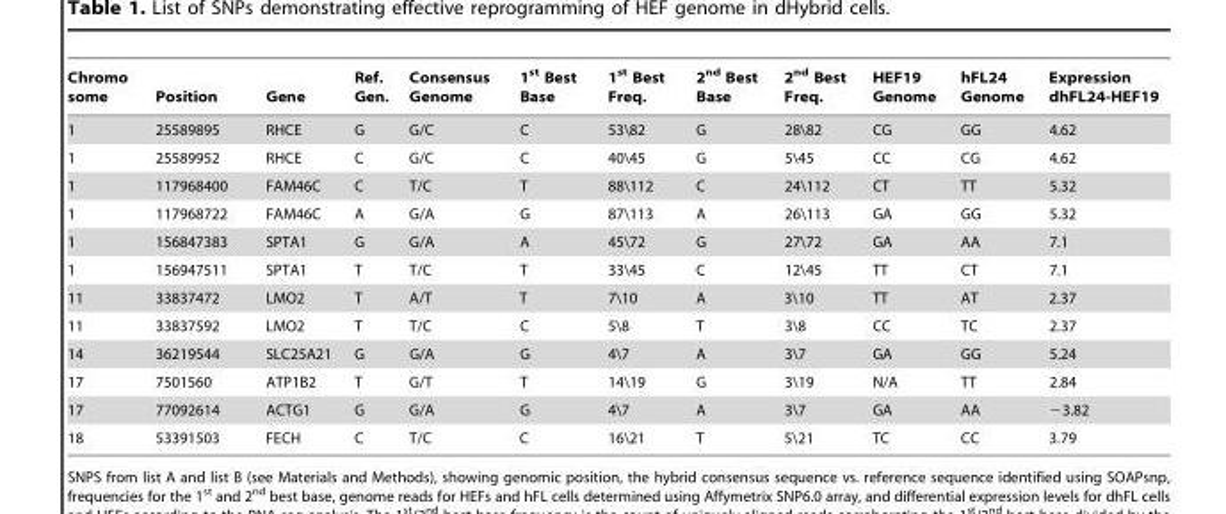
<table><thead><tr><td>Chromo some</td><td>Position</td><td>Gene</td><td>Ref. Gen.</td><td>Consensus Genome</td><td>1<sup>st</sup> Best Base</td><td>1<sup>st</sup> Best Freq.</td><td>2<sup>nd</sup> Best Base</td><td>2<sup>nd</sup> Best Freq.</td><td>HEF19 Genome</td><td>hFL24 Genome</td><td>Expression dhFL24-HEF19</td></tr></thead><tbody><tr><td>1</td><td>25589895</td><td>RHCE</td><td>G</td><td>G/C</td><td>C</td><td>53\82</td><td>G</td><td>28\82</td><td>CG</td><td>GG</td><td>4.62</td></tr><tr><td>1</td><td>25589952</td><td>RHCE</td><td>C</td><td>G/C</td><td>C</td><td>40\45</td><td>G</td><td>5\45</td><td>CC</td><td>CG</td><td>4.62</td></tr><tr><td>1</td><td>117968400</td><td>FAM46C</td><td>C</td><td>T/C</td><td>T</td><td>88\112</td><td>C</td><td>24\112</td><td>CT</td><td>TT</td><td>5.32</td></tr><tr><td>1</td><td>117968722</td><td>FAM46C</td><td>A</td><td>G/A</td><td>G</td><td>87\113</td><td>A</td><td>26\113</td><td>GA</td><td>GG</td><td>5.32</td></tr><tr><td>1</td><td>156847383</td><td>SPTA1</td><td>G</td><td>G/A</td><td>A</td><td>45\72</td><td>G</td><td>27\72</td><td>GA</td><td>AA</td><td>7.1</td></tr><tr><td>1</td><td>156947511</td><td>SPTA1</td><td>T</td><td>T/C</td><td>T</td><td>33\45</td><td>C</td><td>12\45</td><td>TT</td><td>CT</td><td>7.1</td></tr><tr><td>11</td><td>33837472</td><td>LMO2</td><td>T</td><td>A/T</td><td>T</td><td>7\10</td><td>A</td><td>3\10</td><td>TT</td><td>AT</td><td>2.37</td></tr><tr><td>11</td><td>33837592</td><td>LMO2</td><td>T</td><td>T/C</td><td>C</td><td>5\8</td><td>T</td><td>3\8</td><td>CC</td><td>TC</td><td>2.37</td></tr><tr><td>14</td><td>36219544</td><td>SLC25A21</td><td>G</td><td>G/A</td><td>G</td><td>4\7</td><td>A</td><td>3\7</td><td>GA</td><td>GG</td><td>5.24</td></tr><tr><td>17</td><td>7501560</td><td>ATP1B2</td><td>T</td><td>G/T</td><td>T</td><td>14\19</td><td>G</td><td>3\19</td><td>N/A</td><td>TT</td><td>2.84</td></tr><tr><td>17</td><td>77092614</td><td>ACTG1</td><td>G</td><td>G/A</td><td>G</td><td>4\7</td><td>A</td><td>3\7</td><td>GA</td><td>AA</td><td>−3.82</td></tr><tr><td>18</td><td>53391503</td><td>FECH</td><td>C</td><td>T/C</td><td>C</td><td>16\21</td><td>T</td><td>5\21</td><td>TC</td><td>CC</td><td>3.79</td></tr></tbody></table>